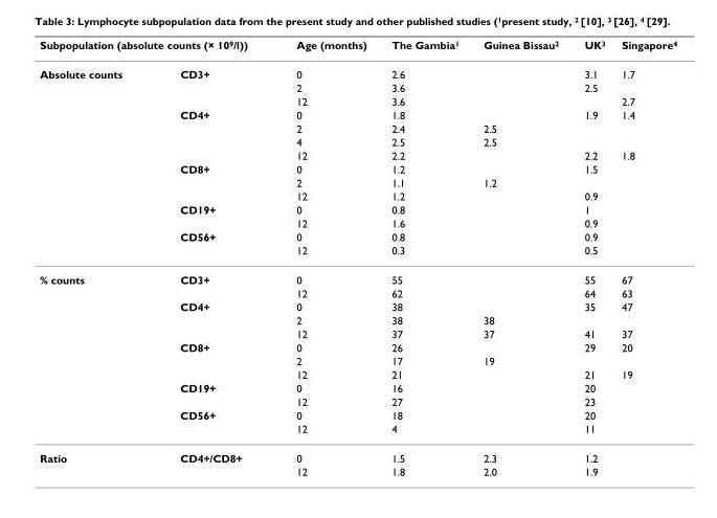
<table><thead><tr><td colspan="2">Subpopulation (absolute counts (× 10<sup>9</sup>/l))</td><td rowspan="2">Age (months) 0</td><td rowspan="2">The Gambia<sup>1</sup> 2.6</td><td rowspan="2">Guinea Bissau<sup>2</sup></td><td rowspan="2">UK<sup>3</sup> 3.1</td><td rowspan="2">Singapore<sup>4</sup> 1.7</td></tr><tr><td>Absolute counts</td><td>CD3+</td></tr></thead><tbody><tr><td></td><td></td><td>2</td><td>3.6</td><td></td><td>2.5</td><td></td></tr><tr><td></td><td></td><td>12</td><td>3.6</td><td></td><td></td><td>2.7</td></tr><tr><td></td><td>CD4+</td><td>0</td><td>1.8</td><td></td><td>1.9</td><td>1.4</td></tr><tr><td></td><td></td><td>2</td><td>2.4</td><td>2.5</td><td></td><td></td></tr><tr><td></td><td></td><td>4</td><td>2.5</td><td>2.5</td><td></td><td></td></tr><tr><td></td><td></td><td>12</td><td>2.2</td><td></td><td>2.2</td><td>1.8</td></tr><tr><td></td><td>CD8+</td><td>0</td><td>1.2</td><td></td><td>1.5</td><td></td></tr><tr><td></td><td></td><td>2</td><td>1.1</td><td>1.2</td><td></td><td></td></tr><tr><td></td><td></td><td>12</td><td>1.2</td><td></td><td>0.9</td><td></td></tr><tr><td></td><td>CD19+</td><td>0</td><td>0.8</td><td></td><td>1</td><td></td></tr><tr><td></td><td></td><td>12</td><td>1.6</td><td></td><td>0.9</td><td></td></tr><tr><td></td><td>CD56+</td><td>0</td><td>0.8</td><td></td><td>0.9</td><td></td></tr><tr><td></td><td></td><td>12</td><td>0.3</td><td></td><td>0.5</td><td></td></tr><tr><td rowspan="12">% counts</td><td>CD3+</td><td>0</td><td>55</td><td></td><td>55</td><td>67</td></tr><tr><td></td><td>12</td><td>62</td><td></td><td>64</td><td>63</td></tr><tr><td>CD4+</td><td>0</td><td>38</td><td></td><td>35</td><td>47</td></tr><tr><td></td><td>2</td><td>38</td><td>38</td><td></td><td></td></tr><tr><td></td><td>12</td><td>37</td><td>37</td><td>41</td><td>37</td></tr><tr><td>CD8+</td><td>0</td><td>26</td><td></td><td>29</td><td>20</td></tr><tr><td></td><td>2</td><td>17</td><td>19</td><td></td><td></td></tr><tr><td></td><td>12</td><td>21</td><td></td><td>21</td><td>19</td></tr><tr><td>CD19+</td><td>0</td><td>16</td><td></td><td>20</td><td></td></tr><tr><td></td><td>12</td><td>27</td><td></td><td>23</td><td></td></tr><tr><td>CD56+</td><td>0</td><td>18</td><td></td><td>20</td><td></td></tr><tr><td></td><td>12</td><td>4</td><td></td><td>11</td><td></td></tr><tr><td rowspan="2">Ratio</td><td>CD4+/CD8+</td><td>0</td><td>1.5</td><td>2.3</td><td>1.2</td><td></td></tr><tr><td></td><td>12</td><td>1.8</td><td>2.0</td><td>1.9</td><td></td></tr></tbody></table>